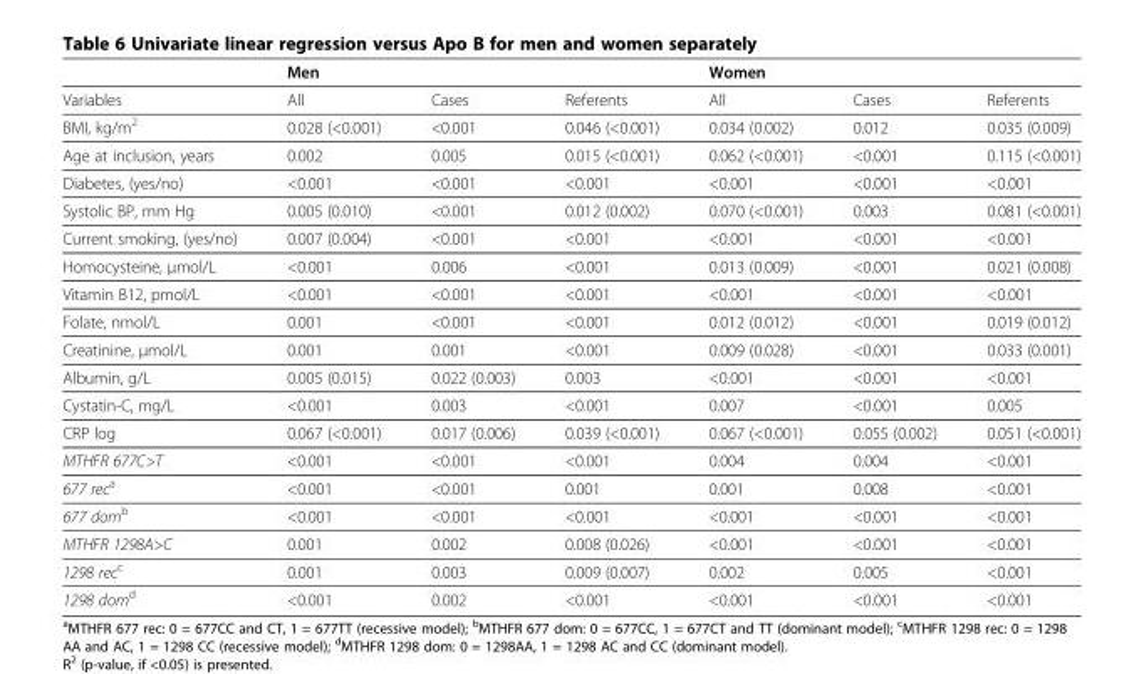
<table><thead><tr><td></td><td>Men</td><td></td><td></td><td>Women</td><td></td><td></td></tr></thead><tbody><tr><td>Variables</td><td>All</td><td>Cases</td><td>Referents</td><td>All</td><td>Cases</td><td>Referents</td></tr><tr><td>BMI, kg/m<sup>2</sup></td><td>0.028 (&lt;0.001)</td><td>&lt;0.001</td><td>0.046 (&lt;0.001)</td><td>0.034 (0.002)</td><td>0.012</td><td>0.035 (0.009)</td></tr><tr><td>Age at inclusion, years</td><td>0.002</td><td>0.005</td><td>0.015 (&lt;0.001)</td><td>0.062 (&lt;0.001)</td><td>&lt;0.001</td><td>0.115 (&lt;0.001)</td></tr><tr><td>Diabetes, (yes/no)</td><td>&lt;0.001</td><td>&lt;0.001</td><td>&lt;0.001</td><td>&lt;0.001</td><td>&lt;0.001</td><td>&lt;0.001</td></tr><tr><td>Systolic BP, mm Hg</td><td>0.005 (0.010)</td><td>&lt;0.001</td><td>0.012 (0.002)</td><td>0.070 (&lt;0.001)</td><td>0.003</td><td>0.081 (&lt;0.001)</td></tr><tr><td>Current smoking, (yes/no)</td><td>0.007 (0.004)</td><td>&lt;0.001</td><td>&lt;0.001</td><td>&lt;0.001</td><td>&lt;0.001</td><td>&lt;0.001</td></tr><tr><td>Homocysteine, μmol/L</td><td>&lt;0.001</td><td>0.006</td><td>&lt;0.001</td><td>0.013 (0.009)</td><td>&lt;0.001</td><td>0.021 (0.008)</td></tr><tr><td>Vitamin B12, pmol/L</td><td>&lt;0.001</td><td>&lt;0.001</td><td>&lt;0.001</td><td>&lt;0.001</td><td>&lt;0.001</td><td>&lt;0.001</td></tr><tr><td>Folate, nmol/L</td><td>0.001</td><td>&lt;0.001</td><td>&lt;0.001</td><td>0.012 (0.012)</td><td>&lt;0.001</td><td>0.019 (0.012)</td></tr><tr><td>Creatinine, μmol/L</td><td>0.001</td><td>0.001</td><td>&lt;0.001</td><td>0.009 (0.028)</td><td>&lt;0.001</td><td>0.033 (0.001)</td></tr><tr><td>Albumin, g/L</td><td>0.005 (0.015)</td><td>0.022 (0.003)</td><td>0.003</td><td>&lt;0.001</td><td>&lt;0.001</td><td>&lt;0.001</td></tr><tr><td>Cystatin-C, mg/L</td><td>&lt;0.001</td><td>0.003</td><td>&lt;0.001</td><td>0.007</td><td>&lt;0.001</td><td>0.005</td></tr><tr><td>CRP log</td><td>0.067 (&lt;0.001)</td><td>0.017 (0.006)</td><td>0.039 (&lt;0.001)</td><td>0.067 (&lt;0.001)</td><td>0.055 (0.002)</td><td>0.051 (&lt;0.001)</td></tr><tr><td>MTHFR 677C&gt;T</td><td>&lt;0.001</td><td>&lt;0.001</td><td>&lt;0.001</td><td>0.004</td><td>0.004</td><td>&lt;0.001</td></tr><tr><td>677 rec<sup>a</sup></td><td>&lt;0.001</td><td>&lt;0.001</td><td>0.001</td><td>0.001</td><td>0.008</td><td>&lt;0.001</td></tr><tr><td>677 dom<sup>b</sup></td><td>&lt;0.001</td><td>&lt;0.001</td><td>&lt;0.001</td><td>&lt;0.001</td><td>&lt;0.001</td><td>&lt;0.001</td></tr><tr><td>MTHFR 1298A&gt;C</td><td>0.001</td><td>0.002</td><td>0.008 (0.026)</td><td>&lt;0.001</td><td>&lt;0.001</td><td>&lt;0.001</td></tr><tr><td>1298 rec<sup>c</sup></td><td>0.001</td><td>0.003</td><td>0.009 (0.007)</td><td>0.002</td><td>0.005</td><td>&lt;0.001</td></tr><tr><td>1298 dom<sup>d</sup></td><td>&lt;0.001</td><td>0.002</td><td>&lt;0.001</td><td>&lt;0.001</td><td>&lt;0.001</td><td>&lt;0.001</td></tr></tbody></table>